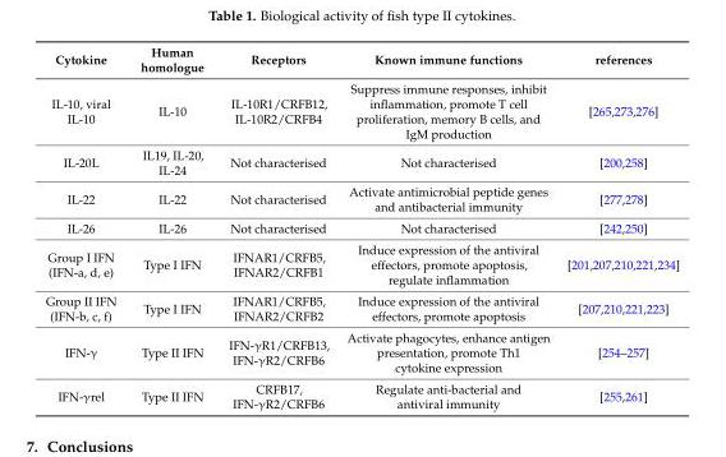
<table><thead><tr><td>Cytokine</td><td>Human homologue</td><td>Receptors</td><td>Known immune functions</td><td>references</td></tr></thead><tbody><tr><td>IL-10, viral IL-10</td><td>IL-10</td><td>IL-10R1/CRFB12, IL-10R2/CRFB4</td><td>Suppress immune responses, inhibit inflammation, promote T cell proliferation, memory B cells, and IgM production</td><td>[265,273,276]</td></tr><tr><td>IL-20L</td><td>IL19, IL-20, IL-24</td><td>Not characterised</td><td>Not characterised</td><td>[200,258]</td></tr><tr><td>IL-22</td><td>IL-22</td><td>Not characterised</td><td>Activate antimicrobial peptide genes and antibacterial immunity</td><td>[277,278]</td></tr><tr><td>IL-26</td><td>IL-26</td><td>Not characterised</td><td>Not characterised</td><td>[242,250]</td></tr><tr><td>Group I IFN (IFN-a, d, e)</td><td>Type I IFN</td><td>IFNAR1/CRFB5, IFNAR2/CRFB1</td><td>Induce expression of the antiviral effectors, promote apoptosis, regulate inflammation</td><td>[201,207,210,221,234]</td></tr><tr><td>Group II IFN (IFN-b, c, f)</td><td>Type I IFN</td><td>IFNAR1/CRFB5, IFNAR2/CRFB2</td><td>Induce expression of the antiviral effectors, promote apoptosis</td><td>[207,210,221,223]</td></tr><tr><td>IFN-γ</td><td>Type II IFN</td><td>IFN-γR1/CRFB13, IFN-γR2/CRFB6</td><td>Activate phagocytes, enhance antigen presentation, promote Th1 cytokine expression</td><td>[254–257]</td></tr><tr><td>IFN-γrel</td><td>Type II IFN</td><td>CRFB17, IFN-γR2/CRFB6</td><td>Regulate anti-bacterial and antiviral immunity</td><td>[255,261]</td></tr></tbody></table>